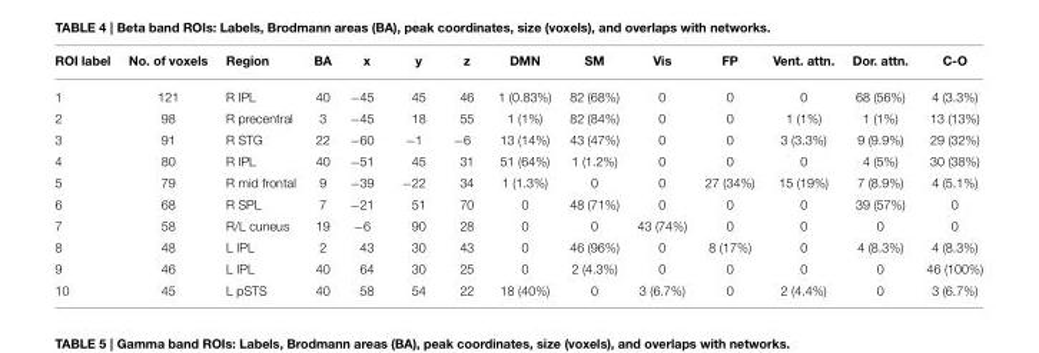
<table><thead><tr><td>ROI label</td><td>No. of voxels</td><td>Region</td><td>BA</td><td>x</td><td>y</td><td>z</td><td>DMN</td><td>SM</td><td>Vis</td><td>FP</td><td>Vent. attn.</td><td>Dor. attn.</td><td>C-O</td></tr></thead><tbody><tr><td>1</td><td>121</td><td>R IPL</td><td>40</td><td>−45</td><td>45</td><td>46</td><td>1 (0.83%)</td><td>82 (68%)</td><td>0</td><td>0</td><td>0</td><td>68 (56%)</td><td>4 (3.3%)</td></tr><tr><td>2</td><td>98</td><td>R precentral</td><td>3</td><td>−45</td><td>18</td><td>55</td><td>1 (1%)</td><td>82 (84%)</td><td>0</td><td>0</td><td>1 (1%)</td><td>1 (1%)</td><td>13 (13%)</td></tr><tr><td>3</td><td>91</td><td>R STG</td><td>22</td><td>−60</td><td>−1</td><td>−6</td><td>13 (14%)</td><td>43 (47%)</td><td>0</td><td>0</td><td>3 (3.3%)</td><td>9 (9.9%)</td><td>29 (32%)</td></tr><tr><td>4</td><td>80</td><td>R IPL</td><td>40</td><td>−51</td><td>45</td><td>31</td><td>51 (64%)</td><td>1 (1.2%)</td><td>0</td><td>0</td><td>0</td><td>4 (5%)</td><td>30 (38%)</td></tr><tr><td>5</td><td>79</td><td>R mid frontal</td><td>9</td><td>−39</td><td>−22</td><td>34</td><td>1 (1.3%)</td><td>0</td><td>0</td><td>27 (34%)</td><td>15 (19%)</td><td>7 (8.9%)</td><td>4 (5.1%)</td></tr><tr><td>6</td><td>68</td><td>R SPL</td><td>7</td><td>−21</td><td>51</td><td>70</td><td>0</td><td>48 (71%)</td><td>0</td><td>0</td><td>0</td><td>39 (57%)</td><td>0</td></tr><tr><td>7</td><td>58</td><td>R/L cuneus</td><td>19</td><td>−6</td><td>90</td><td>28</td><td>0</td><td>0</td><td>43 (74%)</td><td>0</td><td>0</td><td>0</td><td>0</td></tr><tr><td>8</td><td>48</td><td>L IPL</td><td>2</td><td>43</td><td>30</td><td>43</td><td>0</td><td>46 (96%)</td><td>0</td><td>8 (17%)</td><td>0</td><td>4 (8.3%)</td><td>4 (8.3%)</td></tr><tr><td>9</td><td>46</td><td>L IPL</td><td>40</td><td>64</td><td>30</td><td>25</td><td>0</td><td>2 (4.3%)</td><td>0</td><td>0</td><td>0</td><td>0</td><td>46 (100%)</td></tr><tr><td>10</td><td>45</td><td>L pSTS</td><td>40</td><td>58</td><td>54</td><td>22</td><td>18 (40%)</td><td>0</td><td>3 (6.7%)</td><td>0</td><td>2 (4.4%)</td><td>0</td><td>3 (6.7%)</td></tr></tbody></table>